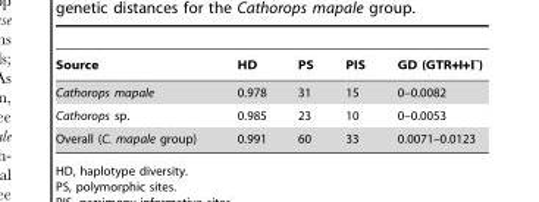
<table><thead><tr><td>Source</td><td>HD</td><td>PS</td><td>PIS</td><td>GD (GTR+I+Γ)</td></tr></thead><tbody><tr><td>Cathorops mapale</td><td>0.978</td><td>31</td><td>15</td><td>0–0.0082</td></tr><tr><td>Cathorops sp.</td><td>0.985</td><td>23</td><td>10</td><td>0–0.0053</td></tr><tr><td>Overall (C. mapale group)</td><td>0.991</td><td>60</td><td>33</td><td>0.0071–0.0123</td></tr></tbody></table>